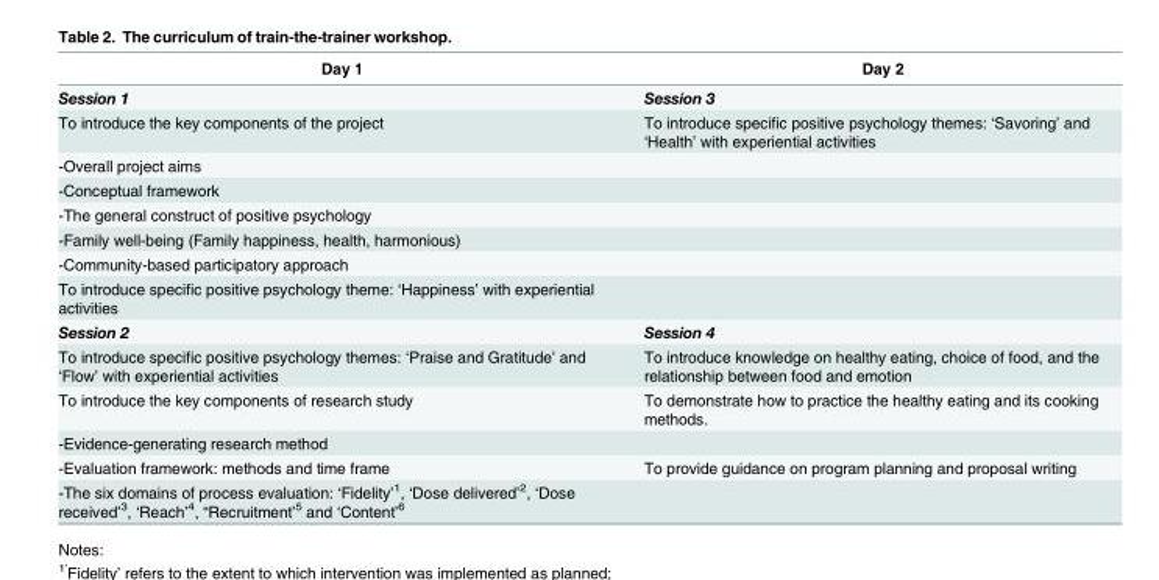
<table><thead><tr><td>Day 1</td><td>Day 2</td></tr></thead><tbody><tr><td>Session 1</td><td>Session 3</td></tr><tr><td>To introduce the key components of the project</td><td>To introduce specific positive psychology themes: ‘Savoring’ and ‘Health’ with experiential activities</td></tr><tr><td colspan="2">-Overall project aims</td></tr><tr><td colspan="2">-Conceptual framework</td></tr><tr><td colspan="2">-The general construct of positive psychology</td></tr><tr><td colspan="2">-Family well-being (Family happiness, health, harmonious)</td></tr><tr><td colspan="2">-Community-based participatory approach</td></tr><tr><td colspan="2">To introduce specific positive psychology theme: ‘Happiness’ with experiential activities</td></tr><tr><td>Session 2</td><td>Session 4</td></tr><tr><td>To introduce specific positive psychology themes: ‘Praise and Gratitude’ and ‘Flow’ with experiential activities</td><td>To introduce knowledge on healthy eating, choice of food, and the relationship between food and emotion</td></tr><tr><td>To introduce the key components of research study</td><td>To demonstrate how to practice the healthy eating and its cooking methods.</td></tr><tr><td colspan="2">-Evidence-generating research method</td></tr><tr><td>-Evaluation framework: methods and time frame</td><td>To provide guidance on program planning and proposal writing</td></tr><tr><td>-The six domains of process evaluation: ‘Fidelity’<sup>1</sup>, ‘Dose delivered’<sup>2</sup>, ‘Dose received’<sup>3</sup>, ‘Reach’<sup>4</sup>, “Recruitment’<sup>5</sup> and ‘Content’<sup>6</sup></td><td></td></tr></tbody></table>